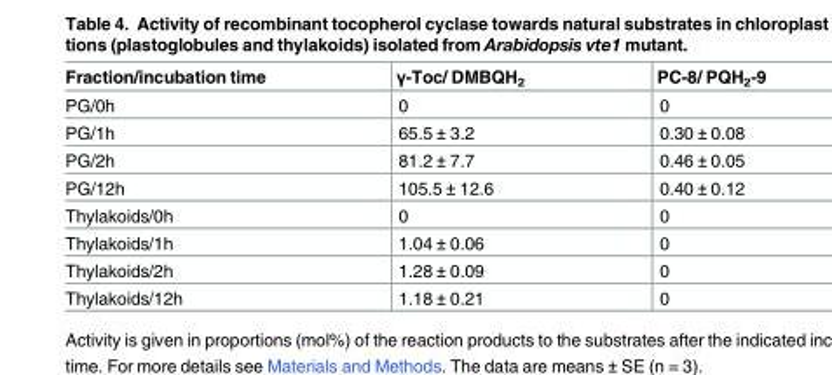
<table><thead><tr><td>Fraction/incubation time</td><td>γ-Toc/ DMBQH<sub>2</sub></td><td>PC-8/ PQH<sub>2</sub>-9</td></tr></thead><tbody><tr><td>PG/0h</td><td>0</td><td>0</td></tr><tr><td>PG/1h</td><td>65.5 ± 3.2</td><td>0.30 ± 0.08</td></tr><tr><td>PG/2h</td><td>81.2 ± 7.7</td><td>0.46 ± 0.05</td></tr><tr><td>PG/12h</td><td>105.5 ± 12.6</td><td>0.40 ± 0.12</td></tr><tr><td>Thylakoids/0h</td><td>0</td><td>0</td></tr><tr><td>Thylakoids/1h</td><td>1.04 ± 0.06</td><td>0</td></tr><tr><td>Thylakoids/2h</td><td>1.28 ± 0.09</td><td>0</td></tr><tr><td>Thylakoids/12h</td><td>1.18 ± 0.21</td><td>0</td></tr></tbody></table>